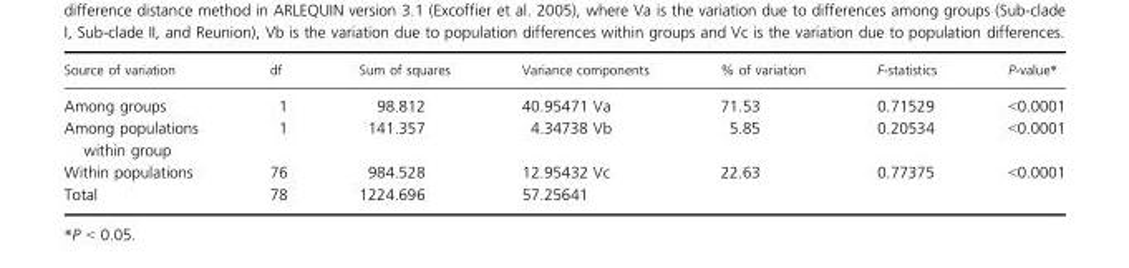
<table><thead><tr><td>Source of variation</td><td>df</td><td>Sum of squares</td><td>Variance components</td><td>% of variation</td><td>F-statistics</td><td>P-value*</td></tr></thead><tbody><tr><td>Among groups</td><td>1</td><td>98.812</td><td>40.95471 Va</td><td>71.53</td><td>0.71529</td><td>&lt;0.0001</td></tr><tr><td>Among populations within group</td><td>1</td><td>141.357</td><td>4.34738 Vb</td><td>5.85</td><td>0.20534</td><td>&lt;0.0001</td></tr><tr><td>Within populations</td><td>76</td><td>984.528</td><td>12.95432 Vc</td><td>22.63</td><td>0.77375</td><td>&lt;0.0001</td></tr><tr><td>Total</td><td>78</td><td>1224.696</td><td>57.25641</td><td></td><td></td><td></td></tr></tbody></table>